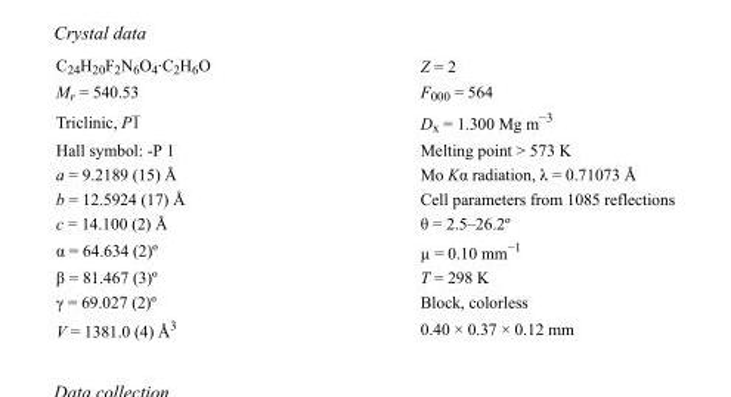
<table><tbody><tr><td>C<sub>24</sub>H<sub>20</sub>F<sub>2</sub>N<sub>6</sub>O<sub>4</sub>·C<sub>2</sub>H<sub>6</sub>O</td><td>Z = 2</td></tr><tr><td>M<sub>r</sub> = 540.53</td><td>F000 = 564</td></tr><tr><td>Triclinic, P1</td><td>D<sub>x</sub> = 1.300 Mg m<sup>−3</sup></td></tr><tr><td>Hall symbol: -P 1</td><td>Melting point &gt; 573 K</td></tr><tr><td>a = 9.2189 (15) Å</td><td>Mo Kα radiation, λ = 0.71073 Å</td></tr><tr><td>b = 12.5924 (17) Å</td><td>Cell parameters from 1085 reflections</td></tr><tr><td>c = 14.100 (2) Å</td><td>θ = 2.5–26.2º</td></tr><tr><td>α = 64.634 (2)º</td><td>µ = 0.10 mm<sup>−1</sup></td></tr><tr><td>β = 81.467 (3)º</td><td>T = 298 K</td></tr><tr><td>γ = 69.027 (2)º</td><td>Block, colorless</td></tr><tr><td>V = 1381.0 (4) Å<sup>3</sup></td><td>0.40 × 0.37 × 0.12 mm</td></tr></tbody></table>